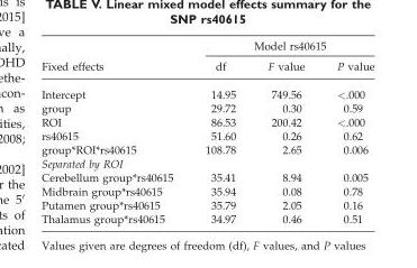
<table><thead><tr><td rowspan="2">Fixed effects</td><td colspan="3">Model rs40615</td></tr><tr><td>df</td><td>F value</td><td>P value</td></tr></thead><tbody><tr><td>Intercept</td><td>14.95</td><td>749.56</td><td>&lt;.000</td></tr><tr><td>group</td><td>29.72</td><td>0.30</td><td>0.59</td></tr><tr><td>ROI</td><td>86.53</td><td>200.42</td><td>&lt;.000</td></tr><tr><td>rs40615</td><td>51.60</td><td>0.26</td><td>0.62</td></tr><tr><td>group*ROI*rs40615</td><td>108.78</td><td>2.65</td><td>0.006</td></tr><tr><td colspan="4">Separated by ROI</td></tr><tr><td>Cerebellum group*rs40615</td><td>35.41</td><td>8.94</td><td>0.005</td></tr><tr><td>Midbrain group*rs40615</td><td>35.94</td><td>0.08</td><td>0.78</td></tr><tr><td>Putamen group*rs40615</td><td>35.79</td><td>2.05</td><td>0.16</td></tr><tr><td>Thalamus group*rs40615</td><td>34.97</td><td>0.46</td><td>0.51</td></tr></tbody></table>